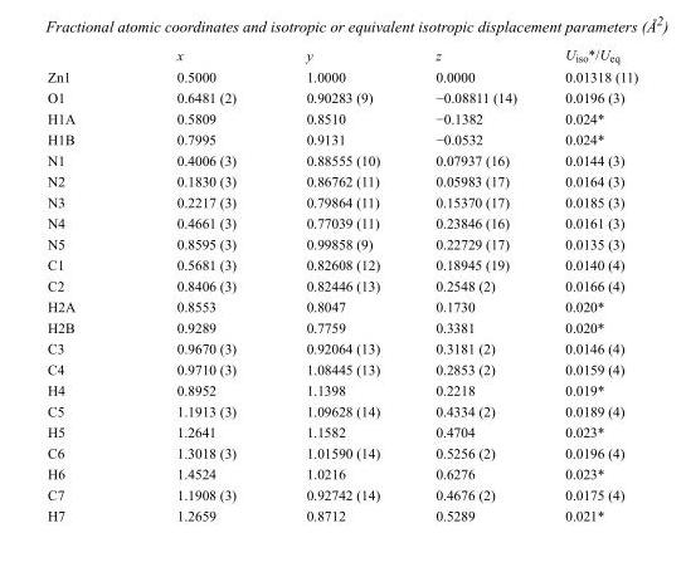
<table><thead><tr><td></td><td>x</td><td>y</td><td>z</td><td>U<sub>iso</sub>*/U<sub>eq</sub></td></tr></thead><tbody><tr><td>Zn1</td><td>0.5000</td><td>1.0000</td><td>0.0000</td><td>0.01318 (11)</td></tr><tr><td>O1</td><td>0.6481 (2)</td><td>0.90283 (9)</td><td>−0.08811 (14)</td><td>0.0196 (3)</td></tr><tr><td>H1A</td><td>0.5809</td><td>0.8510</td><td>−0.1382</td><td>0.024*</td></tr><tr><td>H1B</td><td>0.7995</td><td>0.9131</td><td>−0.0532</td><td>0.024*</td></tr><tr><td>N1</td><td>0.4006 (3)</td><td>0.88555 (10)</td><td>0.07937 (16)</td><td>0.0144 (3)</td></tr><tr><td>N2</td><td>0.1830 (3)</td><td>0.86762 (11)</td><td>0.05983 (17)</td><td>0.0164 (3)</td></tr><tr><td>N3</td><td>0.2217 (3)</td><td>0.79864 (11)</td><td>0.15370 (17)</td><td>0.0185 (3)</td></tr><tr><td>N4</td><td>0.4661 (3)</td><td>0.77039 (11)</td><td>0.23846 (16)</td><td>0.0161 (3)</td></tr><tr><td>N5</td><td>0.8595 (3)</td><td>0.99858 (9)</td><td>0.22729 (17)</td><td>0.0135 (3)</td></tr><tr><td>C1</td><td>0.5681 (3)</td><td>0.82608 (12)</td><td>0.18945 (19)</td><td>0.0140 (4)</td></tr><tr><td>C2</td><td>0.8406 (3)</td><td>0.82446 (13)</td><td>0.2548 (2)</td><td>0.0166 (4)</td></tr><tr><td>H2A</td><td>0.8553</td><td>0.8047</td><td>0.1730</td><td>0.020*</td></tr><tr><td>H2B</td><td>0.9289</td><td>0.7759</td><td>0.3381</td><td>0.020*</td></tr><tr><td>C3</td><td>0.9670 (3)</td><td>0.92064 (13)</td><td>0.3181 (2)</td><td>0.0146 (4)</td></tr><tr><td>C4</td><td>0.9710 (3)</td><td>1.08445 (13)</td><td>0.2853 (2)</td><td>0.0159 (4)</td></tr><tr><td>H4</td><td>0.8952</td><td>1.1398</td><td>0.2218</td><td>0.019*</td></tr><tr><td>C5</td><td>1.1913 (3)</td><td>1.09628 (14)</td><td>0.4334 (2)</td><td>0.0189 (4)</td></tr><tr><td>H5</td><td>1.2641</td><td>1.1582</td><td>0.4704</td><td>0.023*</td></tr><tr><td>C6</td><td>1.3018 (3)</td><td>1.01590 (14)</td><td>0.5256 (2)</td><td>0.0196 (4)</td></tr><tr><td>H6</td><td>1.4524</td><td>1.0216</td><td>0.6276</td><td>0.023*</td></tr><tr><td>C7</td><td>1.1908 (3)</td><td>0.92742 (14)</td><td>0.4676 (2)</td><td>0.0175 (4)</td></tr><tr><td>H7</td><td>1.2659</td><td>0.8712</td><td>0.5289</td><td>0.021*</td></tr></tbody></table>